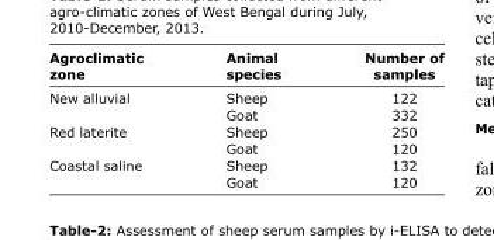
<table><thead><tr><td>Agroclimatic zone</td><td>Animal species</td><td>Number of samples</td></tr></thead><tbody><tr><td rowspan="2">New alluvial</td><td>Sheep</td><td>122</td></tr><tr><td>Goat</td><td>332</td></tr><tr><td rowspan="2">Red laterite</td><td>Sheep</td><td>250</td></tr><tr><td>Goat</td><td>120</td></tr><tr><td rowspan="2">Coastal saline</td><td>Sheep</td><td>132</td></tr><tr><td>Goat</td><td>120</td></tr></tbody></table>